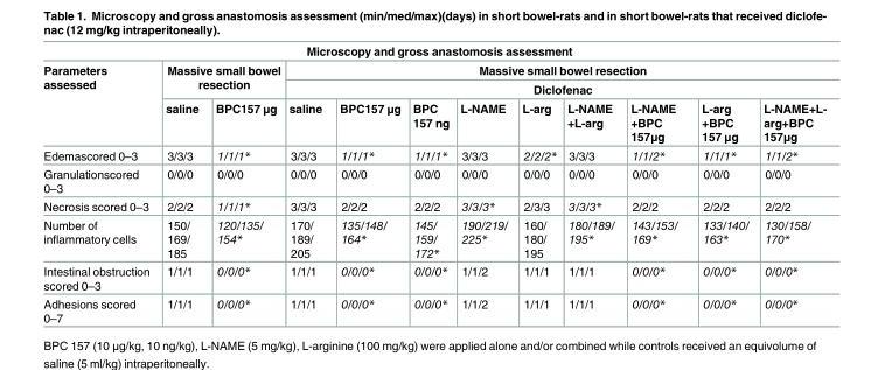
<table><thead><tr><td colspan="12">Microscopy and gross anastomosis assessment</td></tr><tr><td rowspan="3">Parameters assessed</td><td rowspan="2" colspan="2">Massive small bowel resection</td><td rowspan="2" colspan="9">Massive small bowel resection Diclofenac</td></tr><tr></tr><tr><td>saline</td><td>BPC157 μg</td><td>saline</td><td>BPC157 μg</td><td>BPC 157 ng</td><td>L-NAME</td><td>L-arg</td><td>L-NAME +L-arg</td><td>L-NAME +BPC 157μg</td><td>L-arg +BPC 157 μg</td><td>L-NAME+L- arg+BPC 157μg</td></tr></thead><tbody><tr><td>Edemascored 0–3</td><td>3/3/3</td><td>1/1/1*</td><td>3/3/3</td><td>1/1/1*</td><td>1/1/1*</td><td>3/3/3</td><td>2/2/2*</td><td>3/3/3</td><td>1/1/2*</td><td>1/1/1*</td><td>1/1/2*</td></tr><tr><td>Granulationscored 0–3</td><td>0/0/0</td><td>0/0/0</td><td>0/0/0</td><td>0/0/0</td><td>0/0/0</td><td>0/0/0</td><td>0/0/0</td><td>0/0/0</td><td>0/0/0</td><td>0/0/0</td><td>0/0/0</td></tr><tr><td>Necrosis scored 0–3</td><td>2/2/2</td><td>1/1/1*</td><td>3/3/3</td><td>2/2/2</td><td>2/2/2</td><td>3/3/3*</td><td>2/3/3</td><td>3/3/3*</td><td>2/2/2</td><td>2/2/2</td><td>2/2/2</td></tr><tr><td>Number of inflammatory cells</td><td>150/ 169/ 185</td><td>120/135/ 154*</td><td>170/ 189/ 205</td><td>135/148/ 164*</td><td>145/ 159/ 172*</td><td>190/219/ 225*</td><td>160/ 180/ 195</td><td>180/189/ 195*</td><td>143/153/ 169*</td><td>133/140/ 163*</td><td>130/158/ 170*</td></tr><tr><td>Intestinal obstruction scored 0–3</td><td>1/1/1</td><td>0/0/0*</td><td>1/1/1</td><td>0/0/0*</td><td>0/0/0*</td><td>1/1/2</td><td>1/1/1</td><td>1/1/1</td><td>0/0/0*</td><td>0/0/0*</td><td>0/0/0*</td></tr><tr><td>Adhesions scored 0–7</td><td>1/1/1</td><td>0/0/0*</td><td>1/1/1</td><td>0/0/0*</td><td>0/0/0*</td><td>1/1/2</td><td>1/1/1</td><td>1/1/1</td><td>0/0/0*</td><td>0/0/0*</td><td>0/0/0*</td></tr></tbody></table>